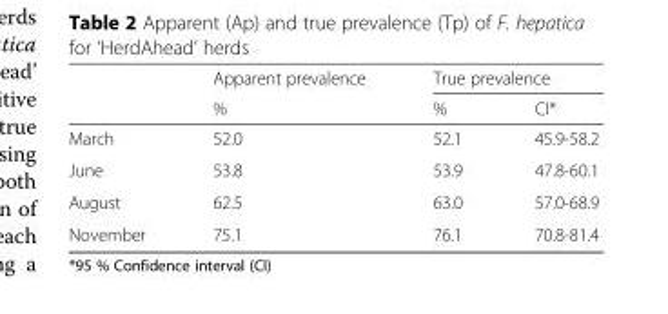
<table><thead><tr><td rowspan="2"></td><td rowspan="2">Apparent prevalence %</td><td colspan="2">True prevalence</td></tr><tr><td>%</td><td>CI*</td></tr></thead><tbody><tr><td>March</td><td>52.0</td><td>52.1</td><td>45.9-58.2</td></tr><tr><td>June</td><td>53.8</td><td>53.9</td><td>47.8-60.1</td></tr><tr><td>August</td><td>62.5</td><td>63.0</td><td>57.0-68.9</td></tr><tr><td>November</td><td>75.1</td><td>76.1</td><td>70.8-81.4</td></tr></tbody></table>